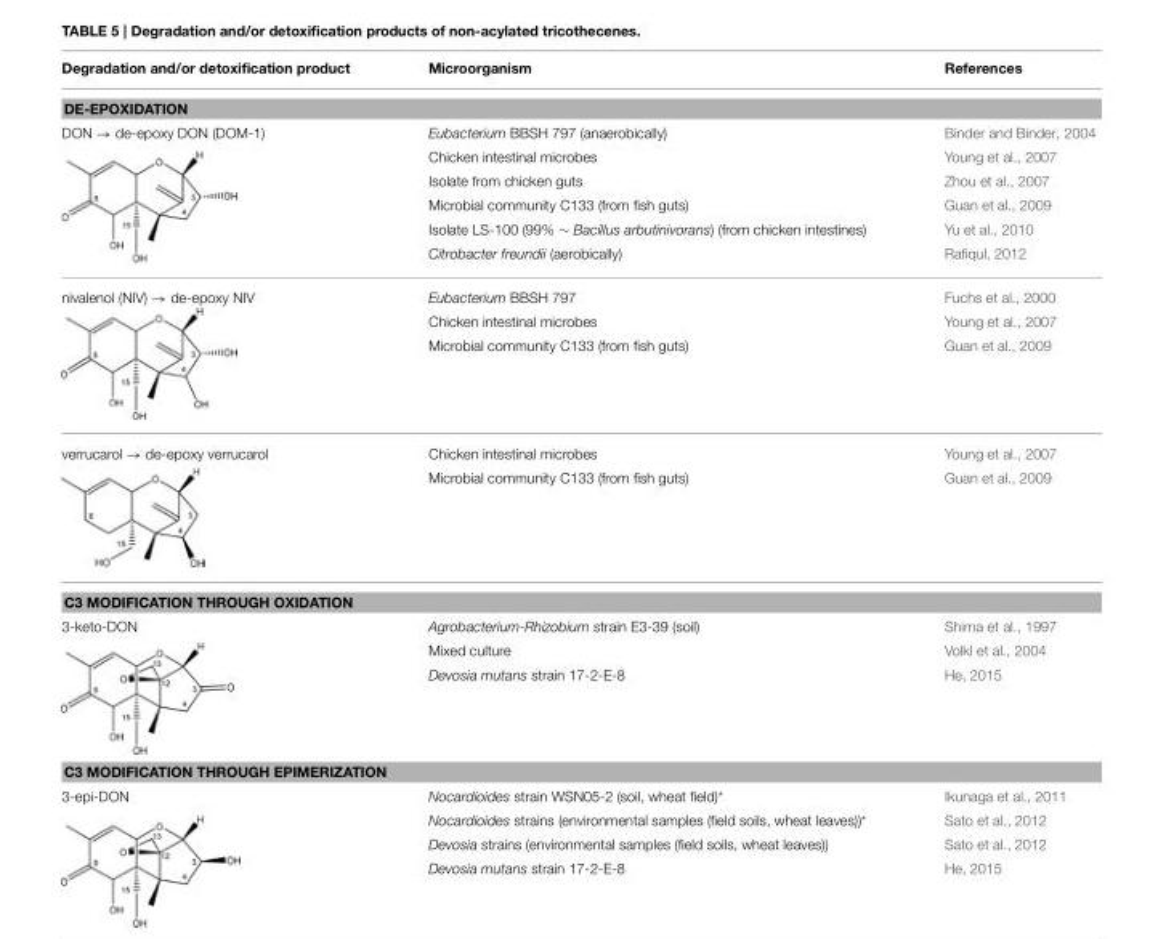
<table><thead><tr><td>Degradation and/or detoxification product</td><td>Microorganism</td><td>References</td></tr></thead><tbody><tr><td colspan="3">DE-EPOXIDATION</td></tr><tr><td rowspan="6">DON → de-epoxy DON (DOM-1)</td><td>Eubacterium BBSH 797 (anaerobically)</td><td>Binder and Binder, 2004</td></tr><tr><td>Chicken intestinal microbes</td><td>Young et al., 2007</td></tr><tr><td>Isolate from chicken guts</td><td>Zhou et al., 2007</td></tr><tr><td>Microbial community C133 (from fish guts)</td><td>Guan et al., 2009</td></tr><tr><td>Isolate LS-100 (99% ∼ Bacillus arbutinivorans) (from chicken intestines)</td><td>Yu et al., 2010</td></tr><tr><td>Citrobacter freundii (aerobically)</td><td>Rafiqul, 2012</td></tr><tr><td rowspan="3">nivalenol (NIV) → de-epoxy NIV</td><td>Eubacterium BBSH 797</td><td>Fuchs et al., 2000</td></tr><tr><td>Chicken intestinal microbes</td><td>Young et al., 2007</td></tr><tr><td>Microbial community C133 (from fish guts)</td><td>Guan et al., 2009</td></tr><tr><td rowspan="2">verrucarol → de-epoxy verrucarol</td><td>Chicken intestinal microbes</td><td>Young et al., 2007</td></tr><tr><td>Microbial community C133 (from fish guts)</td><td>Guan et al., 2009</td></tr><tr><td colspan="3">C3 MODIFICATION THROUGH OXIDATION</td></tr><tr><td rowspan="3">3-keto-DON</td><td>Agrobacterium-Rhizobium strain E3-39 (soil)</td><td>Shima et al., 1997</td></tr><tr><td>Mixed culture</td><td>Volkl et al., 2004</td></tr><tr><td>Devosia mutans strain 17-2-E-8</td><td>He, 2015</td></tr><tr><td colspan="3">C3 MODIFICATION THROUGH EPIMERIZATION</td></tr><tr><td rowspan="4">3-epi-DON</td><td>Nocardioides strain WSN05-2 (soil, wheat field)*</td><td>Ikunaga et al., 2011</td></tr><tr><td>Nocardioides strains (environmental samples (field soils, wheat leaves))*</td><td>Sato et al., 2012</td></tr><tr><td>Devosia strains (environmental samples (field soils, wheat leaves))</td><td>Sato et al., 2012</td></tr><tr><td>Devosia mutans strain 17-2-E-8</td><td>He, 2015</td></tr></tbody></table>